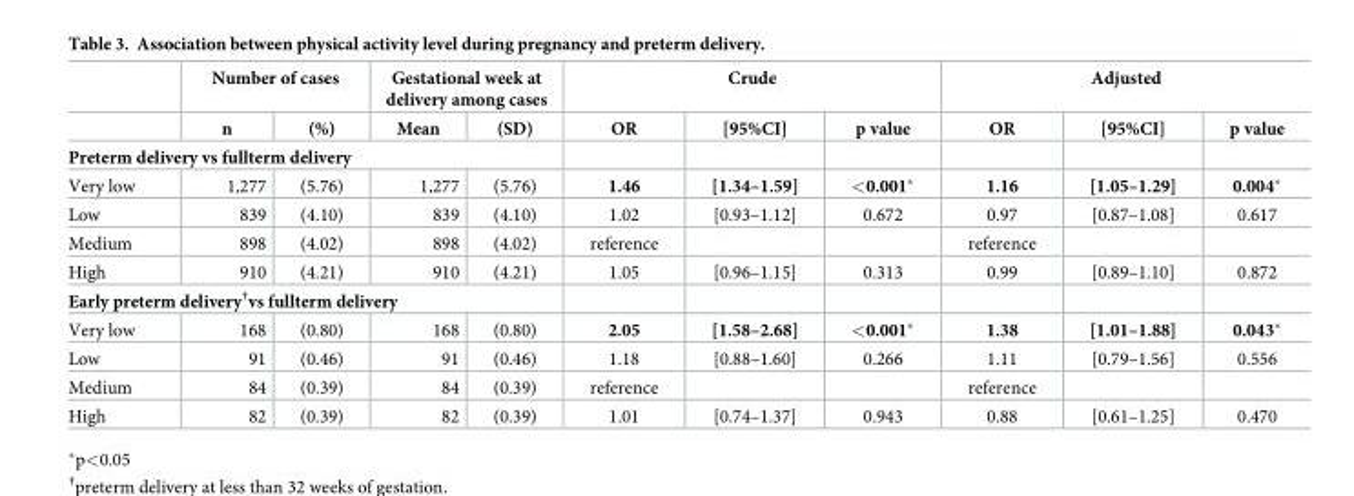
<table><thead><tr><td rowspan="2"></td><td colspan="2">Number of cases</td><td colspan="2">Gestational week at delivery among cases</td><td colspan="3">Crude</td><td colspan="3">Adjusted</td></tr><tr><td>n</td><td>(%)</td><td>Mean</td><td>(SD)</td><td>OR</td><td>[95%CI]</td><td>p value</td><td>OR</td><td>[95%CI]</td><td>p value</td></tr></thead><tbody><tr><td colspan="11">Preterm delivery vs fullterm delivery</td></tr><tr><td>Very low</td><td>1,277</td><td>(5.76)</td><td>1,277</td><td>(5.76)</td><td>1.46</td><td>[1.34–1.59]</td><td>&lt;0.001*</td><td>1.16</td><td>[1.05–1.29]</td><td>0.004*</td></tr><tr><td>Low</td><td>839</td><td>(4.10)</td><td>839</td><td>(4.10)</td><td>1.02</td><td>[0.93–1.12]</td><td>0.672</td><td>0.97</td><td>[0.87–1.08]</td><td>0.617</td></tr><tr><td>Medium</td><td>898</td><td>(4.02)</td><td>898</td><td>(4.02)</td><td>reference</td><td></td><td></td><td>reference</td><td></td><td></td></tr><tr><td>High</td><td>910</td><td>(4.21)</td><td>910</td><td>(4.21)</td><td>1.05</td><td>[0.96–1.15]</td><td>0.313</td><td>0.99</td><td>[0.89–1.10]</td><td>0.872</td></tr><tr><td colspan="11">Early preterm delivery<sup>†</sup>vs fullterm delivery</td></tr><tr><td>Very low</td><td>168</td><td>(0.80)</td><td>168</td><td>(0.80)</td><td>2.05</td><td>[1.58–2.68]</td><td>&lt;0.001*</td><td>1.38</td><td>[1.01–1.88]</td><td>0.043*</td></tr><tr><td>Low</td><td>91</td><td>(0.46)</td><td>91</td><td>(0.46)</td><td>1.18</td><td>[0.88–1.60]</td><td>0.266</td><td>1.11</td><td>[0.79–1.56]</td><td>0.556</td></tr><tr><td>Medium</td><td>84</td><td>(0.39)</td><td>84</td><td>(0.39)</td><td>reference</td><td></td><td></td><td>reference</td><td></td><td></td></tr><tr><td>High</td><td>82</td><td>(0.39)</td><td>82</td><td>(0.39)</td><td>1.01</td><td>[0.74–1.37]</td><td>0.943</td><td>0.88</td><td>[0.61–1.25]</td><td>0.470</td></tr></tbody></table>